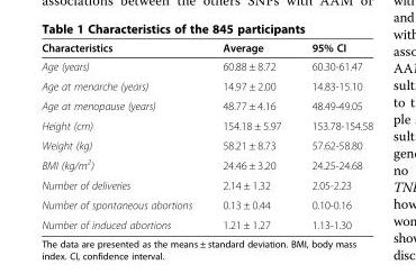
<table><thead><tr><td>Characteristics</td><td>Average</td><td>95% CI</td></tr></thead><tbody><tr><td>Age (years)</td><td>60.88 ± 8.72</td><td>60.30-61.47</td></tr><tr><td>Age at menarche (years)</td><td>14.97 ± 2.00</td><td>14.83-15.10</td></tr><tr><td>Age at menopause (years)</td><td>48.77 ± 4.16</td><td>48.49-49.05</td></tr><tr><td>Height (cm)</td><td>154.18 ± 5.97</td><td>153.78-154.58</td></tr><tr><td>Weight (kg)</td><td>58.21 ± 8.73</td><td>57.62-58.80</td></tr><tr><td>BMI (kg/m<sup>2</sup>)</td><td>24.46 ± 3.20</td><td>24.25-24.68</td></tr><tr><td>Number of deliveries</td><td>2.14 ± 1.32</td><td>2.05-2.23</td></tr><tr><td>Number of spontaneous abortions</td><td>0.13 ± 0.44</td><td>0.10-0.16</td></tr><tr><td>Number of induced abortions</td><td>1.21 ± 1.27</td><td>1.13-1.30</td></tr></tbody></table>